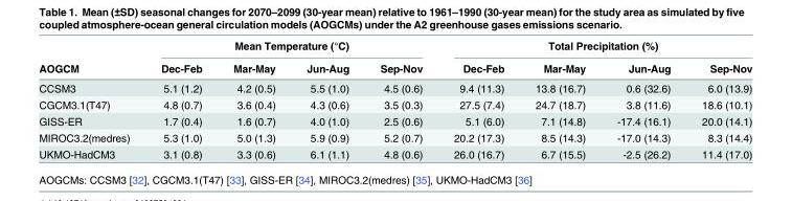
<table><thead><tr><td rowspan="2">AOGCM</td><td colspan="4">Mean Temperature (°C)</td><td colspan="4">Total Precipitation (%)</td></tr><tr><td>Dec-Feb</td><td>Mar-May</td><td>Jun-Aug</td><td>Sep-Nov</td><td>Dec-Feb</td><td>Mar-May</td><td>Jun-Aug</td><td>Sep-Nov</td></tr></thead><tbody><tr><td>CCSM3</td><td>5.1 (1.2)</td><td>4.2 (0.5)</td><td>5.5 (1.0)</td><td>4.5 (0.6)</td><td>9.4 (11.3)</td><td>13.8 (16.7)</td><td>0.6 (32.6)</td><td>6.0 (13.9)</td></tr><tr><td>CGCM3.1(T47)</td><td>4.8 (0.7)</td><td>3.6 (0.4)</td><td>4.3 (0.6)</td><td>3.5 (0.3)</td><td>27.5 (7.4)</td><td>24.7 (18.7)</td><td>3.8 (11.6)</td><td>18.6 (10.1)</td></tr><tr><td>GISS-ER</td><td>1.7 (0.4)</td><td>1.6 (0.7)</td><td>4.0 (1.0)</td><td>2.5 (0.6)</td><td>5.1 (6.0)</td><td>7.1 (14.8)</td><td>-17.4 (16.1)</td><td>20.0 (14.1)</td></tr><tr><td>MIROC3.2(medres)</td><td>5.3 (1.0)</td><td>5.0 (1.3)</td><td>5.9 (0.9)</td><td>5.2 (0.7)</td><td>20.2 (17.3)</td><td>8.5 (14.3)</td><td>-17.0 (14.3)</td><td>8.3 (14.4)</td></tr><tr><td>UKMO-HadCM3</td><td>3.1 (0.8)</td><td>3.3 (0.6)</td><td>6.1 (1.1)</td><td>4.8 (0.6)</td><td>26.0 (16.7)</td><td>6.7 (15.5)</td><td>-2.5 (26.2)</td><td>11.4 (17.0)</td></tr></tbody></table>